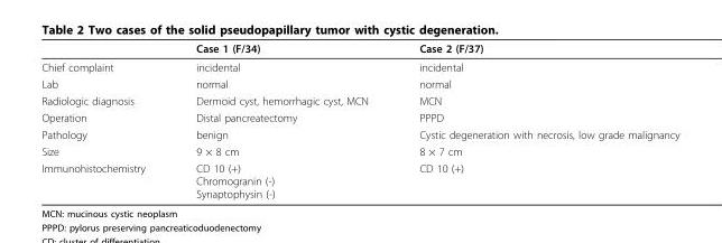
<table><thead><tr><td></td><td>Case 1 (F/34)</td><td>Case 2 (F/37)</td></tr></thead><tbody><tr><td>Chief complaint</td><td>incidental</td><td>incidental</td></tr><tr><td>Lab</td><td>normal</td><td>normal</td></tr><tr><td>Radiologic diagnosis</td><td>Dermoid cyst, hemorrhagic cyst, MCN</td><td>MCN</td></tr><tr><td>Operation</td><td>Distal pancreatectomy</td><td>PPPD</td></tr><tr><td>Pathology</td><td>benign</td><td>Cystic degeneration with necrosis, low grade malignancy</td></tr><tr><td>Size</td><td>9 × 8 cm</td><td>8 × 7 cm</td></tr><tr><td>Immunohistochemistry</td><td>CD 10 (+) Chromogranin (-) Synaptophysin (-)</td><td>CD 10 (+)</td></tr></tbody></table>